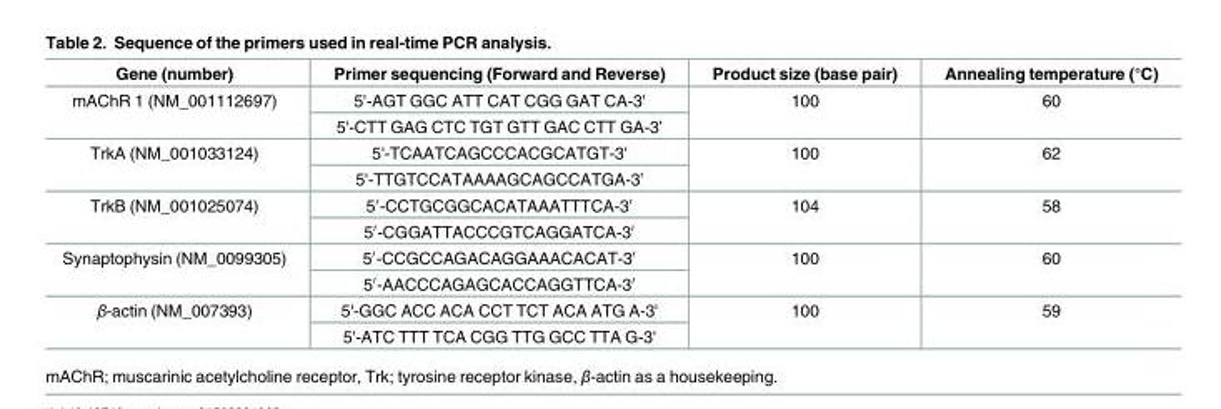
<table><thead><tr><td>Gene (number)</td><td>Primer sequencing (Forward and Reverse)</td><td>Product size (base pair)</td><td>Annealing temperature (°C)</td></tr></thead><tbody><tr><td rowspan="2">mAChR 1 (NM_001112697)</td><td>5&#x27;-AGT GGC ATT CAT CGG GAT CA-3&#x27;</td><td rowspan="2">100</td><td rowspan="2">60</td></tr><tr><td>5&#x27;-CTT GAG CTC TGT GTT GAC CTT GA-3’</td></tr><tr><td rowspan="2">TrkA (NM_001033124)</td><td>5&#x27;-TCAATCAGCCCACGCATGT-3&#x27;</td><td rowspan="2">100</td><td rowspan="2">62</td></tr><tr><td>5&#x27;-TTGTCCATAAAAGCAGCCATGA-3’</td></tr><tr><td rowspan="2">TrkB (NM_001025074)</td><td>5′-CCTGCGGCACATAAATTTCA-3′</td><td rowspan="2">104</td><td rowspan="2">58</td></tr><tr><td>5′-CGGATTACCCGTCAGGATCA-3′</td></tr><tr><td rowspan="2">Synaptophysin (NM_0099305)</td><td>5′-CCGCCAGACAGGAAACACAT-3′</td><td rowspan="2">100</td><td rowspan="2">60</td></tr><tr><td>5′-AACCCAGAGCACCAGGTTCA-3′</td></tr><tr><td rowspan="2">β-actin (NM_007393)</td><td>5&#x27;-GGC ACC ACA CCT TCT ACA ATG A-3&#x27;</td><td rowspan="2">100</td><td rowspan="2">59</td></tr><tr><td>5&#x27;-ATC TTT TCA CGG TTG GCC TTA G-3&#x27;</td></tr></tbody></table>